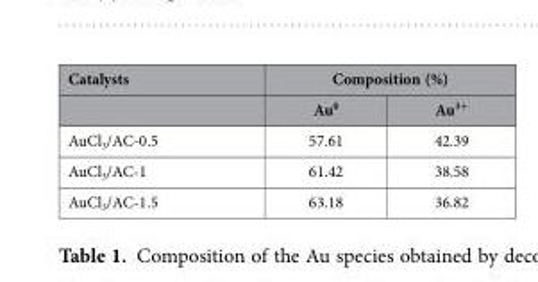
<table><thead><tr><td rowspan="2">Catalysts</td><td colspan="2">Composition (%)</td></tr><tr><td>Au<sup>0</sup></td><td>Au<sup>3+</sup></td></tr></thead><tbody><tr><td>AuCl<sub>3</sub>/AC-0.5</td><td>57.61</td><td>42.39</td></tr><tr><td>AuCl<sub>3</sub>/AC-1</td><td>61.42</td><td>38.58</td></tr><tr><td>AuCl<sub>3</sub>/AC-1.5</td><td>63.18</td><td>36.82</td></tr></tbody></table>